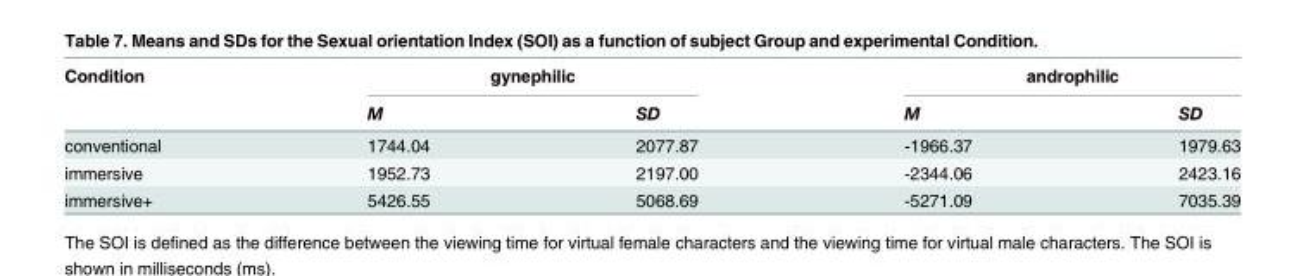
<table><thead><tr><td rowspan="2">Condition</td><td colspan="2">gynephilic</td><td colspan="2">androphilic</td></tr><tr><td>M</td><td>SD</td><td>M</td><td>SD</td></tr></thead><tbody><tr><td>conventional</td><td>1744.04</td><td>2077.87</td><td>-1966.37</td><td>1979.63</td></tr><tr><td>immersive</td><td>1952.73</td><td>2197.00</td><td>-2344.06</td><td>2423.16</td></tr><tr><td>immersive+</td><td>5426.55</td><td>5068.69</td><td>-5271.09</td><td>7035.39</td></tr></tbody></table>